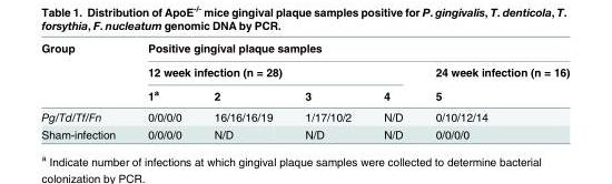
<table><thead><tr><td rowspan="3">Group</td><td colspan="5">Positive gingival plaque samples</td></tr><tr><td colspan="4">12 week infection (n = 28)</td><td rowspan="2">24 week infection (n = 16) 5</td></tr><tr><td>1<sup>a</sup></td><td>2</td><td>3</td><td>4</td></tr></thead><tbody><tr><td>Pg/Td/Tf/Fn</td><td>0/0/0/0</td><td>16/16/16/19</td><td>1/17/10/2</td><td>N/D</td><td>0/10/12/14</td></tr><tr><td>Sham-infection</td><td>0/0/0/0</td><td>N/D</td><td>N/D</td><td>N/D</td><td>0/0/0/0</td></tr></tbody></table>